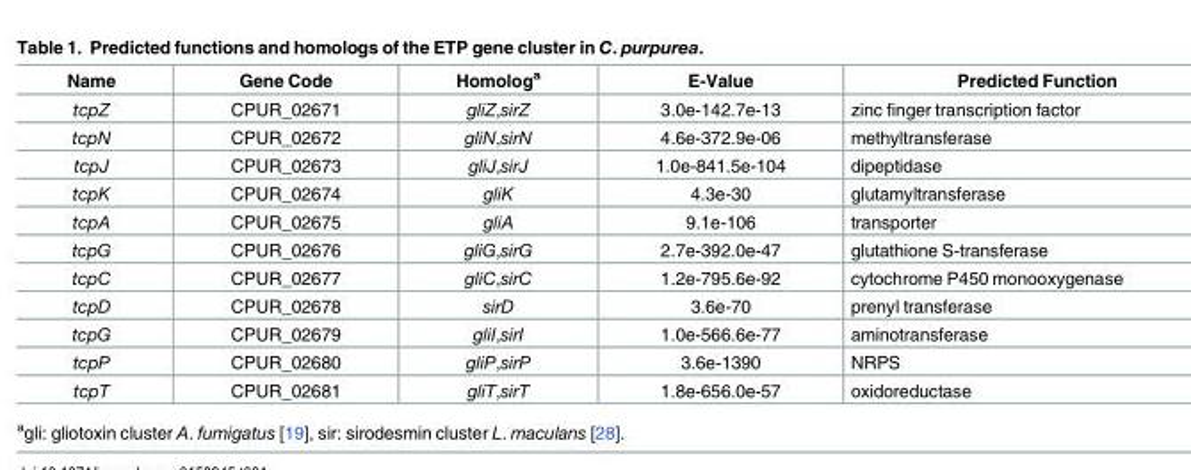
<table><thead><tr><td>Name</td><td>Gene Code</td><td>Homolog<sup>a</sup></td><td>E-Value</td><td>Predicted Function</td></tr></thead><tbody><tr><td>tcpZ</td><td>CPUR_02671</td><td>gliZ,sirZ</td><td>3.0e-142.7e-13</td><td>zinc finger transcription factor</td></tr><tr><td>tcpN</td><td>CPUR_02672</td><td>gliN,sirN</td><td>4.6e-372.9e-06</td><td>methyltransferase</td></tr><tr><td>tcpJ</td><td>CPUR_02673</td><td>gliJ,sirJ</td><td>1.0e-841.5e-104</td><td>dipeptidase</td></tr><tr><td>tcpK</td><td>CPUR_02674</td><td>gliK</td><td>4.3e-30</td><td>glutamyltransferase</td></tr><tr><td>tcpA</td><td>CPUR_02675</td><td>gliA</td><td>9.1e-106</td><td>transporter</td></tr><tr><td>tcpG</td><td>CPUR_02676</td><td>gliG,sirG</td><td>2.7e-392.0e-47</td><td>glutathione S-transferase</td></tr><tr><td>tcpC</td><td>CPUR_02677</td><td>gliC,sirC</td><td>1.2e-795.6e-92</td><td>cytochrome P450 monooxygenase</td></tr><tr><td>tcpD</td><td>CPUR_02678</td><td>sirD</td><td>3.6e-70</td><td>prenyl transferase</td></tr><tr><td>tcpG</td><td>CPUR_02679</td><td>gliI,sirI</td><td>1.0e-566.6e-77</td><td>aminotransferase</td></tr><tr><td>tcpP</td><td>CPUR_02680</td><td>gliP,sirP</td><td>3.6e-1390</td><td>NRPS</td></tr><tr><td>tcpT</td><td>CPUR_02681</td><td>gliT,sirT</td><td>1.8e-656.0e-57</td><td>oxidoreductase</td></tr></tbody></table>